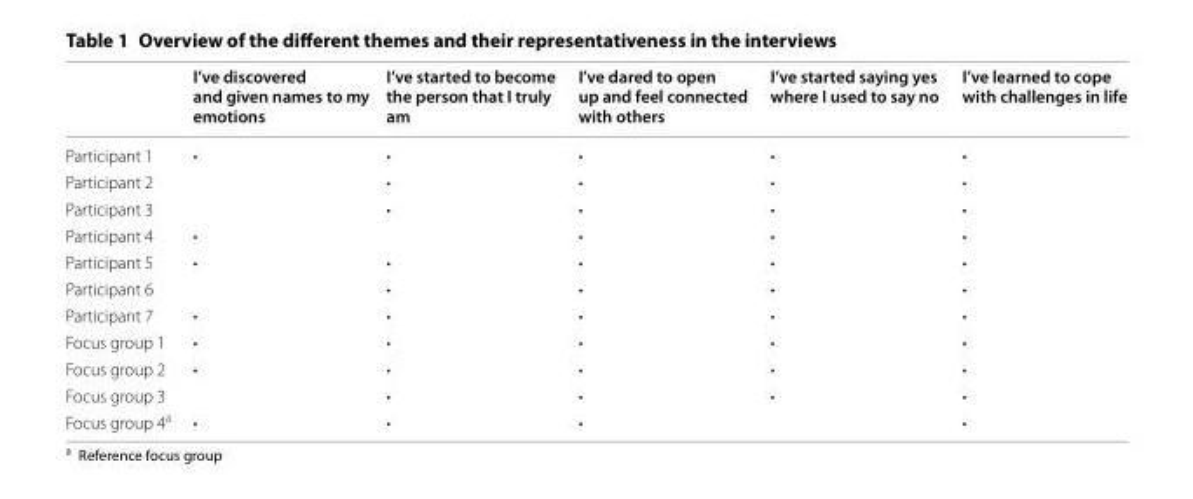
<table><thead><tr><td></td><td>I’ve discovered and given names to my emotions</td><td>I’ve started to become the person that I truly am</td><td>I’ve dared to open up and feel connected with others</td><td>I’ve started saying yes where I used to say no</td><td>I’ve learned to cope with challenges in life</td></tr></thead><tbody><tr><td>Participant 1</td><td>•</td><td>•</td><td>•</td><td>•</td><td>•</td></tr><tr><td>Participant 2</td><td></td><td>•</td><td>•</td><td>•</td><td>•</td></tr><tr><td>Participant 3</td><td></td><td>•</td><td>•</td><td>•</td><td>•</td></tr><tr><td>Participant 4</td><td>•</td><td></td><td>•</td><td>•</td><td>•</td></tr><tr><td>Participant 5</td><td>•</td><td>•</td><td>•</td><td>•</td><td>•</td></tr><tr><td>Participant 6</td><td></td><td>•</td><td>•</td><td>•</td><td>•</td></tr><tr><td>Participant 7</td><td>•</td><td>•</td><td>•</td><td>•</td><td>•</td></tr><tr><td>Focus group 1</td><td>•</td><td>•</td><td>•</td><td>•</td><td>•</td></tr><tr><td>Focus group 2</td><td>•</td><td>•</td><td>•</td><td>•</td><td>•</td></tr><tr><td>Focus group 3</td><td></td><td>•</td><td>•</td><td>•</td><td>•</td></tr><tr><td>Focus group 4<sup>a</sup></td><td>•</td><td>•</td><td>•</td><td></td><td>•</td></tr></tbody></table>